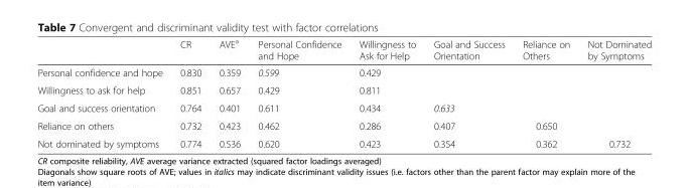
<table><thead><tr><td></td><td>CR</td><td>AVE<sup>a</sup></td><td>Personal Confidence and Hope</td><td>Willingness to Ask for Help</td><td>Goal and Success Orientation</td><td>Reliance on Others</td><td>Not Dominated by Symptoms</td></tr></thead><tbody><tr><td>Personal confidence and hope</td><td>0.830</td><td>0.359</td><td>0.599</td><td>0.429</td><td></td><td></td><td></td></tr><tr><td>Willingness to ask for help</td><td>0.851</td><td>0.657</td><td>0.429</td><td>0.811</td><td></td><td></td><td></td></tr><tr><td>Goal and success orientation</td><td>0.764</td><td>0.401</td><td>0.611</td><td>0.434</td><td>0.633</td><td></td><td></td></tr><tr><td>Reliance on others</td><td>0.732</td><td>0.423</td><td>0.462</td><td>0.286</td><td>0.407</td><td>0.650</td><td></td></tr><tr><td>Not dominated by symptoms</td><td>0.774</td><td>0.536</td><td>0.620</td><td>0.423</td><td>0.354</td><td>0.362</td><td>0.732</td></tr></tbody></table>